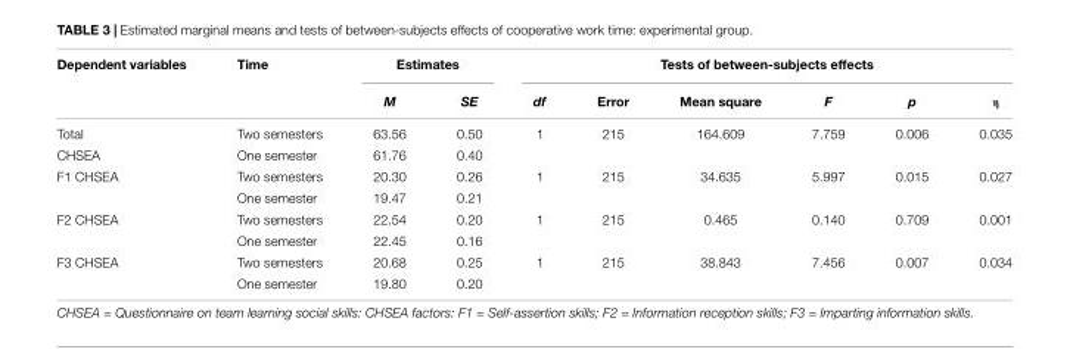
<table><thead><tr><td rowspan="2">Dependent variables</td><td rowspan="2">Time</td><td colspan="2">Estimates</td><td colspan="6">Tests of between-subjects effects</td></tr><tr><td>M</td><td>SE</td><td>df</td><td>Error</td><td>Mean square</td><td>F</td><td>p</td><td>η</td></tr></thead><tbody><tr><td>Total</td><td>Two semesters</td><td>63.56</td><td>0.50</td><td>1</td><td>215</td><td>164.609</td><td>7.759</td><td>0.006</td><td>0.035</td></tr><tr><td>CHSEA</td><td>One semester</td><td>61.76</td><td>0.40</td><td></td><td></td><td></td><td></td><td></td><td></td></tr><tr><td rowspan="2">F1 CHSEA</td><td>Two semesters</td><td>20.30</td><td>0.26</td><td>1</td><td>215</td><td>34.635</td><td>5.997</td><td>0.015</td><td>0.027</td></tr><tr><td>One semester</td><td>19.47</td><td>0.21</td><td></td><td></td><td></td><td></td><td></td><td></td></tr><tr><td rowspan="2">F2 CHSEA</td><td>Two semesters</td><td>22.54</td><td>0.20</td><td>1</td><td>215</td><td>0.465</td><td>0.140</td><td>0.709</td><td>0.001</td></tr><tr><td>One semester</td><td>22.45</td><td>0.16</td><td></td><td></td><td></td><td></td><td></td><td></td></tr><tr><td rowspan="2">F3 CHSEA</td><td>Two semesters</td><td>20.68</td><td>0.25</td><td>1</td><td>215</td><td>38.843</td><td>7.456</td><td>0.007</td><td>0.034</td></tr><tr><td>One semester</td><td>19.80</td><td>0.20</td><td></td><td></td><td></td><td></td><td></td><td></td></tr></tbody></table>